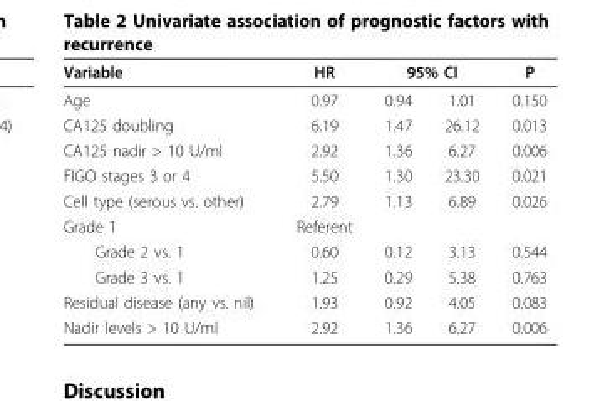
<table><thead><tr><td rowspan="2">Variable Age</td><td rowspan="2">HR 0.97</td><td colspan="2">95% CI</td><td rowspan="2">P 0.150</td></tr><tr><td>0.94</td><td>1.01</td></tr></thead><tbody><tr><td>CA125 doubling</td><td>6.19</td><td>1.47</td><td>26.12</td><td>0.013</td></tr><tr><td>CA125 nadir &gt; 10 U/ml</td><td>2.92</td><td>1.36</td><td>6.27</td><td>0.006</td></tr><tr><td>FIGO stages 3 or 4</td><td>5.50</td><td>1.30</td><td>23.30</td><td>0.021</td></tr><tr><td>Cell type (serous vs. other)</td><td>2.79</td><td>1.13</td><td>6.89</td><td>0.026</td></tr><tr><td>Grade 1</td><td>Referent</td><td></td><td></td><td></td></tr><tr><td>Grade 2 vs. 1</td><td>0.60</td><td>0.12</td><td>3.13</td><td>0.544</td></tr><tr><td>Grade 3 vs. 1</td><td>1.25</td><td>0.29</td><td>5.38</td><td>0.763</td></tr><tr><td>Residual disease (any vs. nil)</td><td>1.93</td><td>0.92</td><td>4.05</td><td>0.083</td></tr><tr><td>Nadir levels &gt; 10 U/ml</td><td>2.92</td><td>1.36</td><td>6.27</td><td>0.006</td></tr></tbody></table>